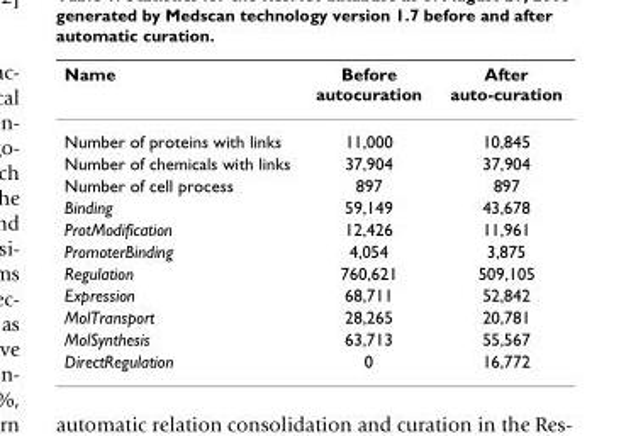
<table><thead><tr><td>Name</td><td>Before autocuration</td><td>After auto-curation</td></tr></thead><tbody><tr><td>Number of proteins with links</td><td>11,000</td><td>10,845</td></tr><tr><td>Number of chemicals with links</td><td>37,904</td><td>37,904</td></tr><tr><td>Number of cell process</td><td>897</td><td>897</td></tr><tr><td>Binding</td><td>59,149</td><td>43,678</td></tr><tr><td>ProtModification</td><td>12,426</td><td>11,961</td></tr><tr><td>PromoterBinding</td><td>4,054</td><td>3,875</td></tr><tr><td>Regulation</td><td>760,621</td><td>509,105</td></tr><tr><td>Expression</td><td>68,711</td><td>52,842</td></tr><tr><td>MolTransport</td><td>28,265</td><td>20,781</td></tr><tr><td>MolSynthesis</td><td>63,713</td><td>55,567</td></tr><tr><td>DirectRegulation</td><td>0</td><td>16,772</td></tr></tbody></table>